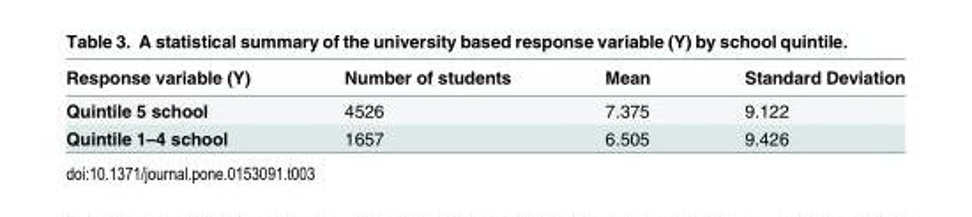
<table><thead><tr><td>Response variable (Y)</td><td>Number of students</td><td>Mean</td><td>Standard Deviation</td></tr></thead><tbody><tr><td>Quintile 5 school</td><td>4526</td><td>7.375</td><td>9.122</td></tr><tr><td>Quintile 1–4 school</td><td>1657</td><td>6.505</td><td>9.426</td></tr></tbody></table>